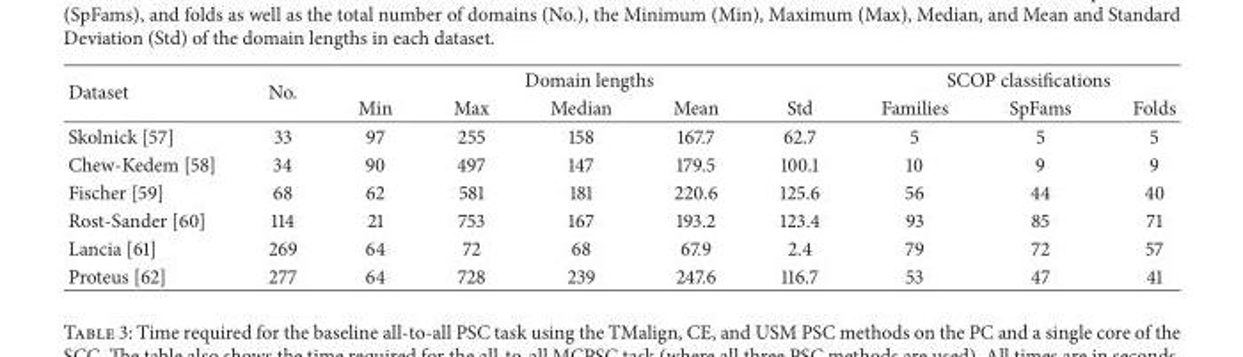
<table><thead><tr><td rowspan="2">Dataset</td><td rowspan="2">No.</td><td colspan="5">Domain lengths</td><td colspan="3">SCOP classifications</td></tr><tr><td>Min</td><td>Max</td><td>Median</td><td>Mean</td><td>Std</td><td>Families</td><td>SpFams</td><td>Folds</td></tr></thead><tbody><tr><td>Skolnick [57]</td><td>33</td><td>97</td><td>255</td><td>158</td><td>167.7</td><td>62.7</td><td>5</td><td>5</td><td>5</td></tr><tr><td>Chew-Kedem [58]</td><td>34</td><td>90</td><td>497</td><td>147</td><td>179.5</td><td>100.1</td><td>10</td><td>9</td><td>9</td></tr><tr><td>Fischer [59]</td><td>68</td><td>62</td><td>581</td><td>181</td><td>220.6</td><td>125.6</td><td>56</td><td>44</td><td>40</td></tr><tr><td>Rost-Sander [60]</td><td>114</td><td>21</td><td>753</td><td>167</td><td>193.2</td><td>123.4</td><td>93</td><td>85</td><td>71</td></tr><tr><td>Lancia [61]</td><td>269</td><td>64</td><td>72</td><td>68</td><td>67.9</td><td>2.4</td><td>79</td><td>72</td><td>57</td></tr><tr><td>Proteus [62]</td><td>277</td><td>64</td><td>728</td><td>239</td><td>247.6</td><td>116.7</td><td>53</td><td>47</td><td>41</td></tr></tbody></table>